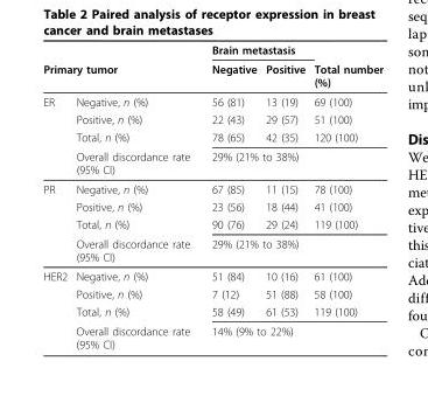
<table><thead><tr><td></td><td></td><td colspan="2">Brain metastasis</td><td rowspan="2">Total number (%)</td></tr><tr><td colspan="2">Primary tumor</td><td>Negative</td><td>Positive</td></tr></thead><tbody><tr><td rowspan="4">ER</td><td>Negative, n (%)</td><td>56 (81)</td><td>13 (19)</td><td>69 (100)</td></tr><tr><td>Positive, n (%)</td><td>22 (43)</td><td>29 (57)</td><td>51 (100)</td></tr><tr><td>Total, n (%)</td><td>78 (65)</td><td>42 (35)</td><td>120 (100)</td></tr><tr><td>Overall discordance rate (95% CI)</td><td colspan="3">29% (21% to 38%)</td></tr><tr><td rowspan="4">PR</td><td>Negative, n (%)</td><td>67 (85)</td><td>11 (15)</td><td>78 (100)</td></tr><tr><td>Positive, n (%)</td><td>23 (56)</td><td>18 (44)</td><td>41 (100)</td></tr><tr><td>Total, n (%)</td><td>90 (76)</td><td>29 (24)</td><td>119 (100)</td></tr><tr><td>Overall discordance rate (95% CI)</td><td colspan="3">29% (21% to 38%)</td></tr><tr><td rowspan="4">HER2</td><td>Negative, n (%)</td><td>51 (84)</td><td>10 (16)</td><td>61 (100)</td></tr><tr><td>Positive, n (%)</td><td>7 (12)</td><td>51 (88)</td><td>58 (100)</td></tr><tr><td>Total, n (%)</td><td>58 (49)</td><td>61 (53)</td><td>119 (100)</td></tr><tr><td>Overall discordance rate (95% CI)</td><td colspan="3">14% (9% to 22%)</td></tr></tbody></table>